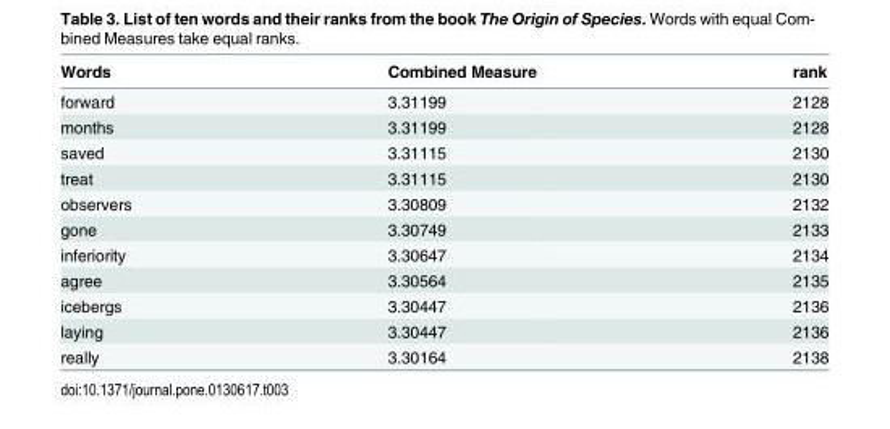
<table><thead><tr><td>Words</td><td>Combined Measure</td><td>rank</td></tr></thead><tbody><tr><td>forward</td><td>3.31199</td><td>2128</td></tr><tr><td>months</td><td>3.31199</td><td>2128</td></tr><tr><td>saved</td><td>3.31115</td><td>2130</td></tr><tr><td>treat</td><td>3.31115</td><td>2130</td></tr><tr><td>observers</td><td>3.30809</td><td>2132</td></tr><tr><td>gone</td><td>3.30749</td><td>2133</td></tr><tr><td>inferiority</td><td>3.30647</td><td>2134</td></tr><tr><td>agree</td><td>3.30564</td><td>2135</td></tr><tr><td>icebergs</td><td>3.30447</td><td>2136</td></tr><tr><td>laying</td><td>3.30447</td><td>2136</td></tr><tr><td>really</td><td>3.30164</td><td>2138</td></tr></tbody></table>